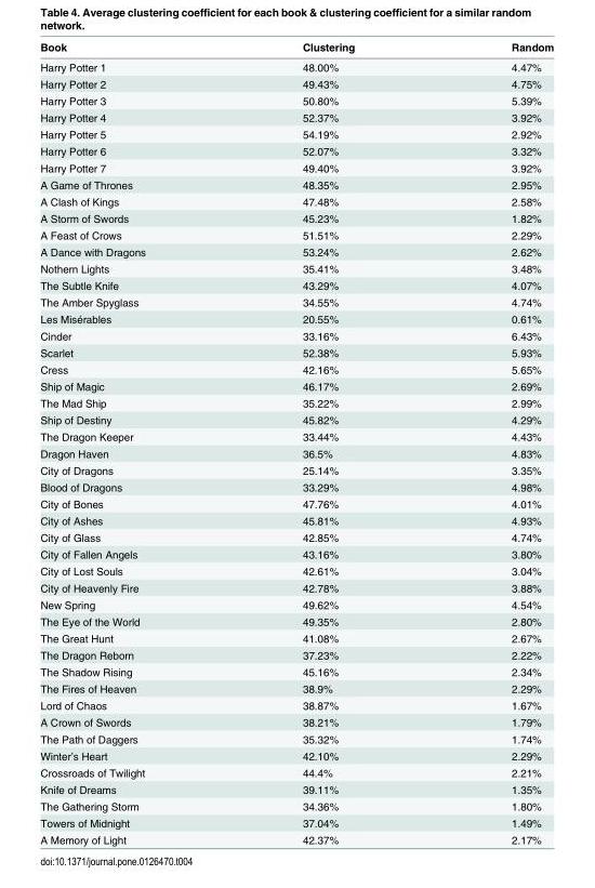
<table><thead><tr><td>Book</td><td>Clustering</td><td>Random</td></tr></thead><tbody><tr><td>Harry Potter 1</td><td>48.00%</td><td>4.47%</td></tr><tr><td>Harry Potter 2</td><td>49.43%</td><td>4.75%</td></tr><tr><td>Harry Potter 3</td><td>50.80%</td><td>5.39%</td></tr><tr><td>Harry Potter 4</td><td>52.37%</td><td>3.92%</td></tr><tr><td>Harry Potter 5</td><td>54.19%</td><td>2.92%</td></tr><tr><td>Harry Potter 6</td><td>52.07%</td><td>3.32%</td></tr><tr><td>Harry Potter 7</td><td>49.40%</td><td>3.92%</td></tr><tr><td>A Game of Thrones</td><td>48.35%</td><td>2.95%</td></tr><tr><td>A Clash of Kings</td><td>47.48%</td><td>2.58%</td></tr><tr><td>A Storm of Swords</td><td>45.23%</td><td>1.82%</td></tr><tr><td>A Feast of Crows</td><td>51.51%</td><td>2.29%</td></tr><tr><td>A Dance with Dragons</td><td>53.24%</td><td>2.62%</td></tr><tr><td>Nothern Lights</td><td>35.41%</td><td>3.48%</td></tr><tr><td>The Subtle Knife</td><td>43.29%</td><td>4.07%</td></tr><tr><td>The Amber Spyglass</td><td>34.55%</td><td>4.74%</td></tr><tr><td>Les Misérables</td><td>20.55%</td><td>0.61%</td></tr><tr><td>Cinder</td><td>33.16%</td><td>6.43%</td></tr><tr><td>Scarlet</td><td>52.38%</td><td>5.93%</td></tr><tr><td>Cress</td><td>42.16%</td><td>5.65%</td></tr><tr><td>Ship of Magic</td><td>46.17%</td><td>2.69%</td></tr><tr><td>The Mad Ship</td><td>35.22%</td><td>2.99%</td></tr><tr><td>Ship of Destiny</td><td>45.82%</td><td>4.29%</td></tr><tr><td>The Dragon Keeper</td><td>33.44%</td><td>4.43%</td></tr><tr><td>Dragon Haven</td><td>36.5%</td><td>4.83%</td></tr><tr><td>City of Dragons</td><td>25.14%</td><td>3.35%</td></tr><tr><td>Blood of Dragons</td><td>33.29%</td><td>4.98%</td></tr><tr><td>City of Bones</td><td>47.76%</td><td>4.01%</td></tr><tr><td>City of Ashes</td><td>45.81%</td><td>4.93%</td></tr><tr><td>City of Glass</td><td>42.85%</td><td>4.74%</td></tr><tr><td>City of Fallen Angels</td><td>43.16%</td><td>3.80%</td></tr><tr><td>City of Lost Souls</td><td>42.61%</td><td>3.04%</td></tr><tr><td>City of Heavenly Fire</td><td>42.78%</td><td>3.88%</td></tr><tr><td>New Spring</td><td>49.62%</td><td>4.54%</td></tr><tr><td>The Eye of the World</td><td>49.35%</td><td>2.80%</td></tr><tr><td>The Great Hunt</td><td>41.08%</td><td>2.67%</td></tr><tr><td>The Dragon Reborn</td><td>37.23%</td><td>2.22%</td></tr><tr><td>The Shadow Rising</td><td>45.16%</td><td>2.34%</td></tr><tr><td>The Fires of Heaven</td><td>38.9%</td><td>2.29%</td></tr><tr><td>Lord of Chaos</td><td>38.87%</td><td>1.67%</td></tr><tr><td>A Crown of Swords</td><td>38.21%</td><td>1.79%</td></tr><tr><td>The Path of Daggers</td><td>35.32%</td><td>1.74%</td></tr><tr><td>Winter’s Heart</td><td>42.10%</td><td>2.29%</td></tr><tr><td>Crossroads of Twilight</td><td>44.4%</td><td>2.21%</td></tr><tr><td>Knife of Dreams</td><td>39.11%</td><td>1.35%</td></tr><tr><td>The Gathering Storm</td><td>34.36%</td><td>1.80%</td></tr><tr><td>Towers of Midnight</td><td>37.04%</td><td>1.49%</td></tr><tr><td>A Memory of Light</td><td>42.37%</td><td>2.17%</td></tr></tbody></table>